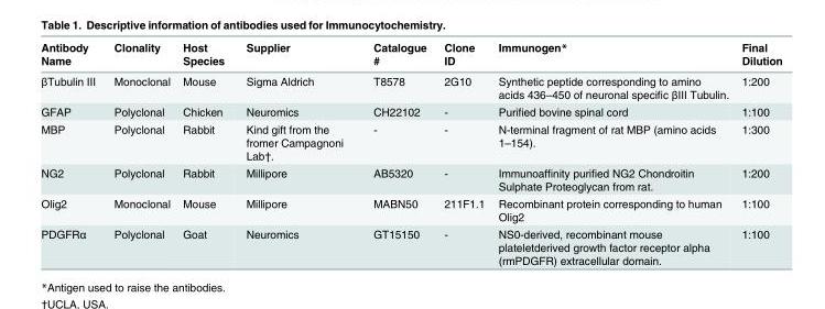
<table><thead><tr><td>Antibody Name</td><td>Clonality</td><td>Host Species</td><td>Supplier</td><td>Catalogue #</td><td>Clone ID</td><td>Immunogen*</td><td>Final Dilution</td></tr></thead><tbody><tr><td>βTubulin III</td><td>Monoclonal</td><td>Mouse</td><td>Sigma Aldrich</td><td>T8578</td><td>2G10</td><td>Synthetic peptide corresponding to amino acids 436–450 of neuronal specific βIII Tubulin.</td><td>1:200</td></tr><tr><td>GFAP</td><td>Polyclonal</td><td>Chicken</td><td>Neuromics</td><td>CH22102</td><td>-</td><td>Purified bovine spinal cord</td><td>1:100</td></tr><tr><td>MBP</td><td>Polyclonal</td><td>Rabbit</td><td>Kind gift from the fromer Campagnoni Lab†.</td><td>-</td><td>-</td><td>N-terminal fragment of rat MBP (amino acids 1–154).</td><td>1:300</td></tr><tr><td>NG2</td><td>Polyclonal</td><td>Rabbit</td><td>Millipore</td><td>AB5320</td><td>-</td><td>Immunoaffinity purified NG2 Chondroitin Sulphate Proteoglycan from rat.</td><td>1:200</td></tr><tr><td>Olig2</td><td>Monoclonal</td><td>Mouse</td><td>Millipore</td><td>MABN50</td><td>211F1.1</td><td>Recombinant protein corresponding to human Olig2</td><td>1:100</td></tr><tr><td>PDGFRα</td><td>Polyclonal</td><td>Goat</td><td>Neuromics</td><td>GT15150</td><td>-</td><td>NS0-derived, recombinant mouse plateletderived growth factor receptor alpha (rmPDGFR) extracellular domain.</td><td>1:100</td></tr></tbody></table>